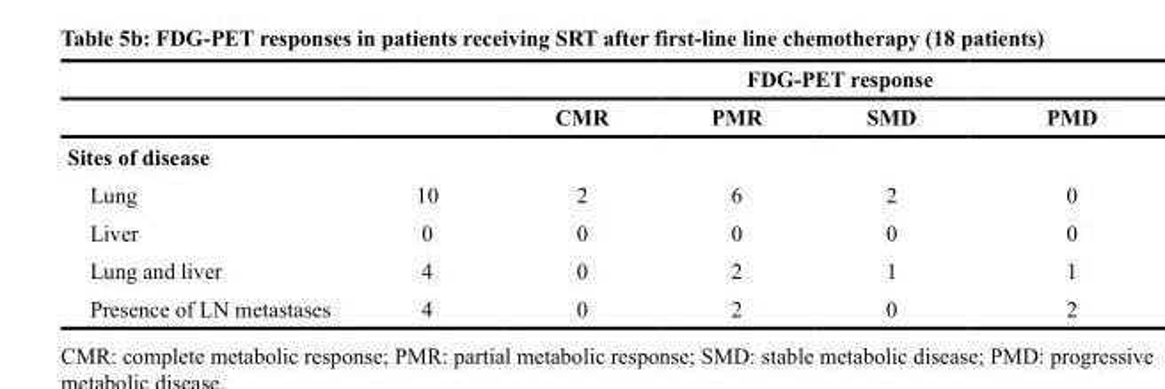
<table><thead><tr><td rowspan="2"></td><td rowspan="2"></td><td colspan="4">FDG-PET response</td></tr><tr><td>CMR</td><td>PMR</td><td>SMD</td><td>PMD</td></tr></thead><tbody><tr><td colspan="6">Sites of disease</td></tr><tr><td>Lung</td><td>10</td><td>2</td><td>6</td><td>2</td><td>0</td></tr><tr><td>Liver</td><td>0</td><td>0</td><td>0</td><td>0</td><td>0</td></tr><tr><td>Lung and liver</td><td>4</td><td>0</td><td>2</td><td>1</td><td>1</td></tr><tr><td>Presence of LN metastases</td><td>4</td><td>0</td><td>2</td><td>0</td><td>2</td></tr></tbody></table>